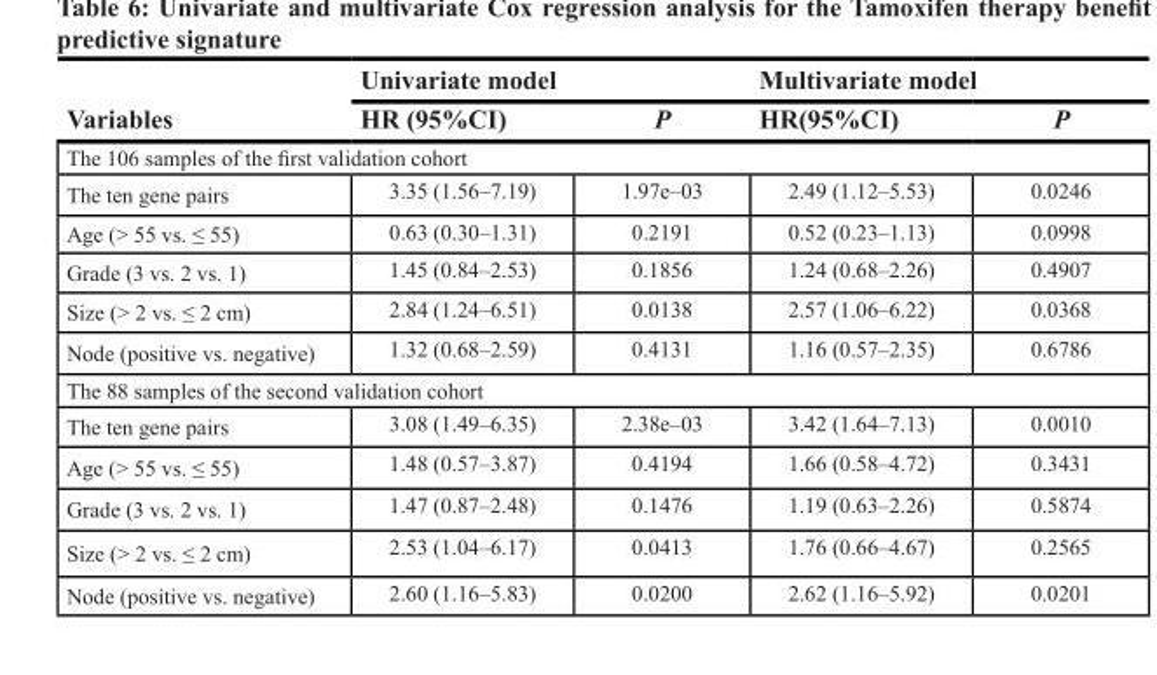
<table><thead><tr><td rowspan="2">Variables</td><td colspan="2">Univariate model</td><td colspan="2">Multivariate model</td></tr><tr><td>HR (95%CI)</td><td>P</td><td>HR(95%CI)</td><td>P</td></tr></thead><tbody><tr><td colspan="5">The 106 samples of the first validation cohort</td></tr><tr><td>The ten gene pairs</td><td>3.35 (1.56–7.19)</td><td>1.97e–03</td><td>2.49 (1.12–5.53)</td><td>0.0246</td></tr><tr><td>Age (&gt; 55 vs. ≤ 55)</td><td>0.63 (0.30–1.31)</td><td>0.2191</td><td>0.52 (0.23–1.13)</td><td>0.0998</td></tr><tr><td>Grade (3 vs. 2 vs. 1)</td><td>1.45 (0.84–2.53)</td><td>0.1856</td><td>1.24 (0.68–2.26)</td><td>0.4907</td></tr><tr><td>Size (&gt; 2 vs. ≤ 2 cm)</td><td>2.84 (1.24–6.51)</td><td>0.0138</td><td>2.57 (1.06–6.22)</td><td>0.0368</td></tr><tr><td>Node (positive vs. negative)</td><td>1.32 (0.68–2.59)</td><td>0.4131</td><td>1.16 (0.57–2.35)</td><td>0.6786</td></tr><tr><td colspan="5">The 88 samples of the second validation cohort</td></tr><tr><td>The ten gene pairs</td><td>3.08 (1.49–6.35)</td><td>2.38e–03</td><td>3.42 (1.64–7.13)</td><td>0.0010</td></tr><tr><td>Age (&gt; 55 vs. ≤ 55)</td><td>1.48 (0.57–3.87)</td><td>0.4194</td><td>1.66 (0.58–4.72)</td><td>0.3431</td></tr><tr><td>Grade (3 vs. 2 vs. 1)</td><td>1.47 (0.87–2.48)</td><td>0.1476</td><td>1.19 (0.63–2.26)</td><td>0.5874</td></tr><tr><td>Size (&gt; 2 vs. ≤ 2 cm)</td><td>2.53 (1.04–6.17)</td><td>0.0413</td><td>1.76 (0.66–4.67)</td><td>0.2565</td></tr><tr><td>Node (positive vs. negative)</td><td>2.60 (1.16–5.83)</td><td>0.0200</td><td>2.62 (1.16–5.92)</td><td>0.0201</td></tr></tbody></table>